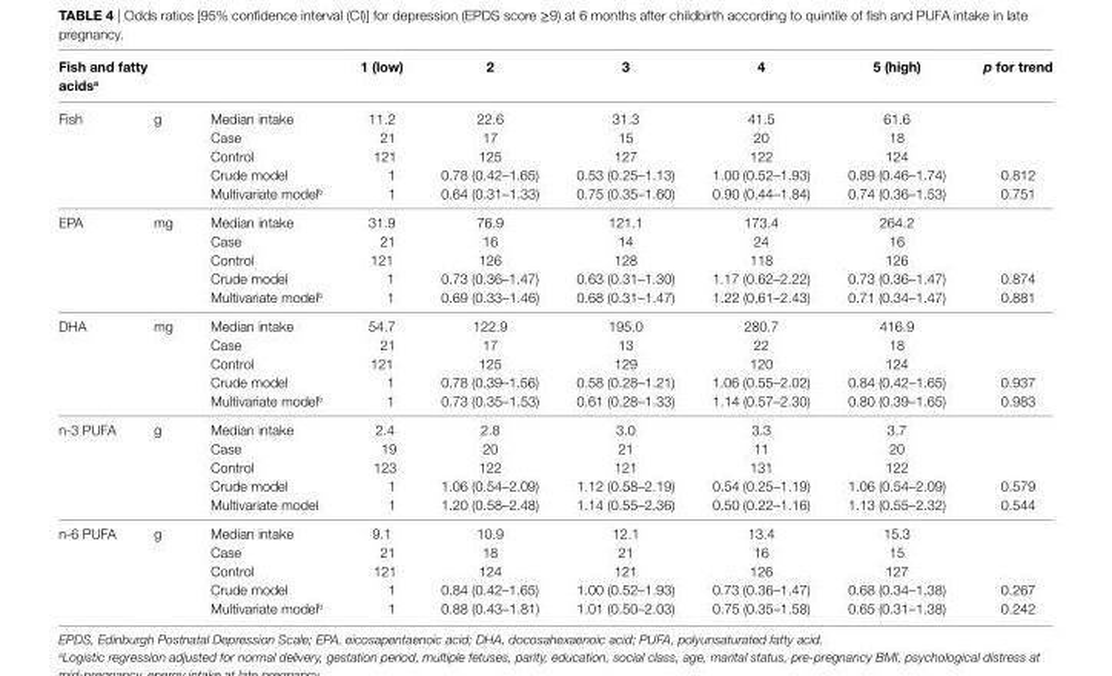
<table><thead><tr><td colspan="2">Fish and fatty acidsa</td><td rowspan="2">Median intake</td><td rowspan="2">1 (low) 11.2</td><td rowspan="2">2 22.6</td><td rowspan="2">3 31.3</td><td rowspan="2">4 41.5</td><td rowspan="2">5 (high) 61.6</td><td rowspan="2">p for trend</td></tr><tr><td>Fish</td><td>g</td></tr></thead><tbody><tr><td></td><td></td><td>Case</td><td>21</td><td>17</td><td>15</td><td>20</td><td>18</td><td></td></tr><tr><td></td><td></td><td>Control</td><td>121</td><td>125</td><td>127</td><td>122</td><td>124</td><td></td></tr><tr><td></td><td></td><td>Crude model</td><td>1</td><td>0.78 (0.42–1.65)</td><td>0.53 (0.25–1.13)</td><td>1.00 (0.52–1.93)</td><td>0.89 (0.46–1.74)</td><td>0.812</td></tr><tr><td></td><td></td><td>Multivariate modelb</td><td>1</td><td>0.64 (0.31–1.33)</td><td>0.75 (0.35–1.60)</td><td>0.90 (0.44–1.84)</td><td>0.74 (0.36–1.53)</td><td>0.751</td></tr><tr><td rowspan="5">EPA</td><td>mg</td><td>Median intake</td><td>31.9</td><td>76.9</td><td>121.1</td><td>173.4</td><td>264.2</td><td></td></tr><tr><td></td><td>Case</td><td>21</td><td>16</td><td>14</td><td>24</td><td>16</td><td></td></tr><tr><td></td><td>Control</td><td>121</td><td>126</td><td>128</td><td>118</td><td>126</td><td></td></tr><tr><td></td><td>Crude model</td><td>1</td><td>0.73 (0.36–1.47)</td><td>0.63 (0.31–1.30)</td><td>1.17 (0.62–2.22)</td><td>0.73 (0.36–1.47)</td><td>0.874</td></tr><tr><td></td><td>Multivariate modelb</td><td>1</td><td>0.69 (0.33–1.46)</td><td>0.68 (0.31–1.47)</td><td>1.22 (0.61–2.43)</td><td>0.71 (0.34–1.47)</td><td>0.881</td></tr><tr><td rowspan="5">DHA</td><td>mg</td><td>Median intake</td><td>54.7</td><td>122.9</td><td>195.0</td><td>280.7</td><td>416.9</td><td></td></tr><tr><td></td><td>Case</td><td>21</td><td>17</td><td>13</td><td>22</td><td>18</td><td></td></tr><tr><td></td><td>Control</td><td>121</td><td>125</td><td>129</td><td>120</td><td>124</td><td></td></tr><tr><td></td><td>Crude model</td><td>1</td><td>0.78 (0.39–1.56)</td><td>0.58 (0.28–1.21)</td><td>1.06 (0.55–2.02)</td><td>0.84 (0.42–1.65)</td><td>0.937</td></tr><tr><td></td><td>Multivariate modelb</td><td>1</td><td>0.73 (0.35–1.53)</td><td>0.61 (0.28–1.33)</td><td>1.14 (0.57–2.30)</td><td>0.80 (0.39–1.65)</td><td>0.983</td></tr><tr><td rowspan="5">n-3 PUFA</td><td>g</td><td>Median intake</td><td>2.4</td><td>2.8</td><td>3.0</td><td>3.3</td><td>3.7</td><td></td></tr><tr><td></td><td>Case</td><td>19</td><td>20</td><td>21</td><td>11</td><td>20</td><td></td></tr><tr><td></td><td>Control</td><td>123</td><td>122</td><td>121</td><td>131</td><td>122</td><td></td></tr><tr><td></td><td>Crude model</td><td>1</td><td>1.06 (0.54–2.09)</td><td>1.12 (0.58–2.19)</td><td>0.54 (0.25–1.19)</td><td>1.06 (0.54–2.09)</td><td>0.579</td></tr><tr><td></td><td>Multivariate model</td><td>1</td><td>1.20 (0.58–2.48)</td><td>1.14 (0.55–2.36)</td><td>0.50 (0.22–1.16)</td><td>1.13 (0.55–2.32)</td><td>0.544</td></tr><tr><td rowspan="5">n-6 PUFA</td><td>g</td><td>Median intake</td><td>9.1</td><td>10.9</td><td>12.1</td><td>13.4</td><td>15.3</td><td></td></tr><tr><td></td><td>Case</td><td>21</td><td>18</td><td>21</td><td>16</td><td>15</td><td></td></tr><tr><td></td><td>Control</td><td>121</td><td>124</td><td>121</td><td>126</td><td>127</td><td></td></tr><tr><td></td><td>Crude model</td><td>1</td><td>0.84 (0.42–1.65)</td><td>1.00 (0.52–1.93)</td><td>0.73 (0.36–1.47)</td><td>0.68 (0.34–1.38)</td><td>0.267</td></tr><tr><td></td><td>Multivariate modelb</td><td>1</td><td>0.88 (0.43–1.81)</td><td>1.01 (0.50–2.03)</td><td>0.75 (0.35–1.58)</td><td>0.65 (0.31–1.38)</td><td>0.242</td></tr></tbody></table>